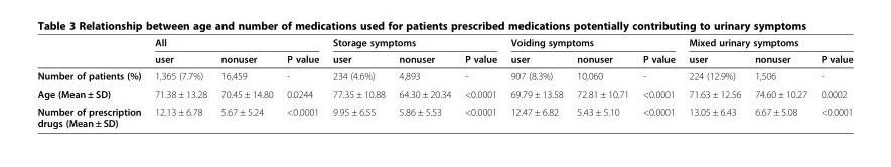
<table><thead><tr><td rowspan="2"></td><td colspan="3">All</td><td colspan="3">Storage symptoms</td><td colspan="3">Voiding symptoms</td><td colspan="3">Mixed urinary symptoms</td></tr><tr><td>user</td><td>nonuser</td><td>P value</td><td>user</td><td>nonuser</td><td>P value</td><td>user</td><td>nonuser</td><td>P value</td><td>user</td><td>nonuser</td><td>P value</td></tr></thead><tbody><tr><td>Number of patients (%)</td><td>1,365 (7.7%)</td><td>16,459</td><td>-</td><td>234 (4.6%)</td><td>4,893</td><td>-</td><td>907 (8.3%)</td><td>10,060</td><td>-</td><td>224 (12.9%)</td><td>1,506</td><td>-</td></tr><tr><td>Age (Mean ± SD)</td><td>71.38 ± 13.28</td><td>70.45 ± 14.80</td><td>0.0244</td><td>77.35 ± 10.88</td><td>64.30 ± 20.34</td><td>&lt;0.0001</td><td>69.79 ± 13.58</td><td>72.81 ± 10.71</td><td>&lt;0.0001</td><td>71.63 ± 12.56</td><td>74.60 ± 10.27</td><td>0.0002</td></tr><tr><td>Number of prescription drugs (Mean ± SD)</td><td>12.13 ± 6.78</td><td>5.67 ± 5.24</td><td>&lt;0.0001</td><td>9.95 ± 6.55</td><td>5.86 ± 5.53</td><td>&lt;0.0001</td><td>12.47 ± 6.82</td><td>5.43 ± 5.10</td><td>&lt;0.0001</td><td>13.05 ± 6.43</td><td>6.67 ± 5.08</td><td>&lt;0.0001</td></tr></tbody></table>